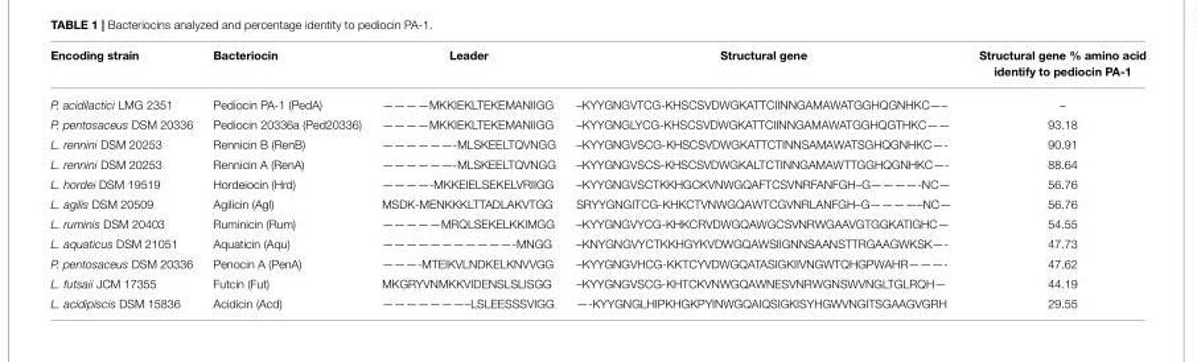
<table><thead><tr><td>Encoding strain</td><td>Bacteriocin</td><td>Leader</td><td>Structural gene</td><td>Structural gene % amino acid identify to pediocin PA-1</td></tr></thead><tbody><tr><td>P. acidilactici LMG 2351</td><td>Pediocin PA-1 (PedA)</td><td>————MKKIEKLTEKEMANIIGG</td><td>–KYYGNGVTCG-KHSCSVDWGKATTCIINNGAMAWATGGHQGNHKC—–</td><td>–</td></tr><tr><td>P. pentosaceus DSM 20336</td><td>Pediocin 20336a (Ped20336)</td><td>————MKKIEKLTEKEMANIIGG</td><td>–KYYGNGLYCG-KHSCSVDWGKATTCIINNGAMAWATGGHQGTHKC——</td><td>93.18</td></tr><tr><td>L. rennini DSM 20253</td><td>Rennicin B (RenB)</td><td>——————-MLSKEELTQVNGG</td><td>–KYYGNGVSCG-KHSCSVDWGKATTCTINNSAMAWATSGHQGNHKC—-</td><td>90.91</td></tr><tr><td>L. rennini DSM 20253</td><td>Rennicin A (RenA)</td><td>——————-MLSKEELTQVNGG</td><td>–KYYGNGVSCS-KHSCSVDWGKALTCTINNGAMAWTTGGHQGNHKC—-</td><td>88.64</td></tr><tr><td>L. hordei DSM 19519</td><td>Hordeiocin (Hrd)</td><td>————-MKKEIELSEKELVRIIGG</td><td>–KYYGNGVSCTKKHGCKVNWGQAFTCSVNRFANFGH–G————-NC—</td><td>56.76</td></tr><tr><td>L. agilis DSM 20509</td><td>Agilicin (Agl)</td><td>MSDK-MENKKKLTTADLAKVTGG</td><td>SRYYGNGITCG-KHKCTVNWGQAWTCGVNRLANFGH–G————–NC—</td><td>56.76</td></tr><tr><td>L. ruminis DSM 20403</td><td>Ruminicin (Rum)</td><td>—————MRQLSEKELKKIMGG</td><td>–KYYGNGVYCG-KHKCRVDWGQAWGCSVNRWGAAVGTGGKATIGHC—</td><td>54.55</td></tr><tr><td>L. aquaticus DSM 21051</td><td>Aquaticin (Aqu)</td><td>———————————-MNGG</td><td>–KNYGNGVYCTKKHGYKVDWGQAWSIIGNNSAANSTTRGAAGWKSK—-</td><td>47.73</td></tr><tr><td>P. pentosaceus DSM 20336</td><td>Penocin A (PenA)</td><td>———-MTEIKVLNDKELKNVVGG</td><td>–KYYGNGVHCG-KKTCYVDWGQATASIGKIIVNGWTQHGPWAHR———-</td><td>47.62</td></tr><tr><td>L. futsaii JCM 17355</td><td>Futcin (Fut)</td><td>MKGRYVNMKKVIDENSLSLISGG</td><td>–KYYGNGVSCG-KHTCKVNWGQAWNESVNRWGNSWVNGLTGLRQH—</td><td>44.19</td></tr><tr><td>L. acidipiscis DSM 15836</td><td>Acidicin (Acd)</td><td>———————–LSLEESSSVIGG</td><td>—-KYYGNGLHIPKHGKPYINWGQAIQSIGKISYHGWVNGITSGAAGVGRH</td><td>29.55</td></tr></tbody></table>